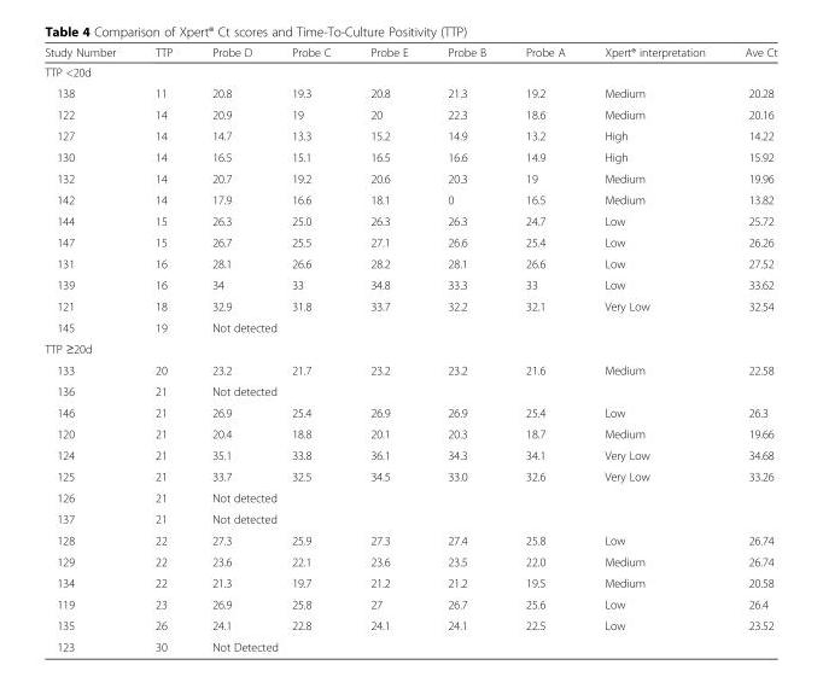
<table><thead><tr><td>Study Number</td><td>TTP</td><td>Probe D</td><td>Probe C</td><td>Probe E</td><td>Probe B</td><td>Probe A</td><td>Xpert® interpretation</td><td>Ave Ct</td></tr></thead><tbody><tr><td colspan="9">TTP &lt;20d</td></tr><tr><td>138</td><td>11</td><td>20.8</td><td>19.3</td><td>20.8</td><td>21.3</td><td>19.2</td><td>Medium</td><td>20.28</td></tr><tr><td>122</td><td>14</td><td>20.9</td><td>19</td><td>20</td><td>22.3</td><td>18.6</td><td>Medium</td><td>20.16</td></tr><tr><td>127</td><td>14</td><td>14.7</td><td>13.3</td><td>15.2</td><td>14.9</td><td>13.2</td><td>High</td><td>14.22</td></tr><tr><td>130</td><td>14</td><td>16.5</td><td>15.1</td><td>16.5</td><td>16.6</td><td>14.9</td><td>High</td><td>15.92</td></tr><tr><td>132</td><td>14</td><td>20.7</td><td>19.2</td><td>20.6</td><td>20.3</td><td>19</td><td>Medium</td><td>19.96</td></tr><tr><td>142</td><td>14</td><td>17.9</td><td>16.6</td><td>18.1</td><td>0</td><td>16.5</td><td>Medium</td><td>13.82</td></tr><tr><td>144</td><td>15</td><td>26.3</td><td>25.0</td><td>26.3</td><td>26.3</td><td>24.7</td><td>Low</td><td>25.72</td></tr><tr><td>147</td><td>15</td><td>26.7</td><td>25.5</td><td>27.1</td><td>26.6</td><td>25.4</td><td>Low</td><td>26.26</td></tr><tr><td>131</td><td>16</td><td>28.1</td><td>26.6</td><td>28.2</td><td>28.1</td><td>26.6</td><td>Low</td><td>27.52</td></tr><tr><td>139</td><td>16</td><td>34</td><td>33</td><td>34.8</td><td>33.3</td><td>33</td><td>Low</td><td>33.62</td></tr><tr><td>121</td><td>18</td><td>32.9</td><td>31.8</td><td>33.7</td><td>32.2</td><td>32.1</td><td>Very Low</td><td>32.54</td></tr><tr><td>145</td><td>19</td><td colspan="7">Not detected</td></tr><tr><td colspan="9">TTP ≥20d</td></tr><tr><td>133</td><td>20</td><td>23.2</td><td>21.7</td><td>23.2</td><td>23.2</td><td>21.6</td><td>Medium</td><td>22.58</td></tr><tr><td>136</td><td>21</td><td colspan="7">Not detected</td></tr><tr><td>146</td><td>21</td><td>26.9</td><td>25.4</td><td>26.9</td><td>26.9</td><td>25.4</td><td>Low</td><td>26.3</td></tr><tr><td>120</td><td>21</td><td>20.4</td><td>18.8</td><td>20.1</td><td>20.3</td><td>18.7</td><td>Medium</td><td>19.66</td></tr><tr><td>124</td><td>21</td><td>35.1</td><td>33.8</td><td>36.1</td><td>34.3</td><td>34.1</td><td>Very Low</td><td>34.68</td></tr><tr><td>125</td><td>21</td><td>33.7</td><td>32.5</td><td>34.5</td><td>33.0</td><td>32.6</td><td>Very Low</td><td>33.26</td></tr><tr><td>126</td><td>21</td><td colspan="7">Not detected</td></tr><tr><td>137</td><td>21</td><td colspan="6">Not detected</td><td></td></tr><tr><td>128</td><td>22</td><td>27.3</td><td>25.9</td><td>27.3</td><td>27.4</td><td>25.8</td><td>Low</td><td>26.74</td></tr><tr><td>129</td><td>22</td><td>23.6</td><td>22.1</td><td>23.6</td><td>23.5</td><td>22.0</td><td>Medium</td><td>26.74</td></tr><tr><td>134</td><td>22</td><td>21.3</td><td>19.7</td><td>21.2</td><td>21.2</td><td>19.5</td><td>Medium</td><td>20.58</td></tr><tr><td>119</td><td>23</td><td>26.9</td><td>25.8</td><td>27</td><td>26.7</td><td>25.6</td><td>Low</td><td>26.4</td></tr><tr><td>135</td><td>26</td><td>24.1</td><td>22.8</td><td>24.1</td><td>24.1</td><td>22.5</td><td>Low</td><td>23.52</td></tr><tr><td>123</td><td>30</td><td colspan="7">Not Detected</td></tr></tbody></table>